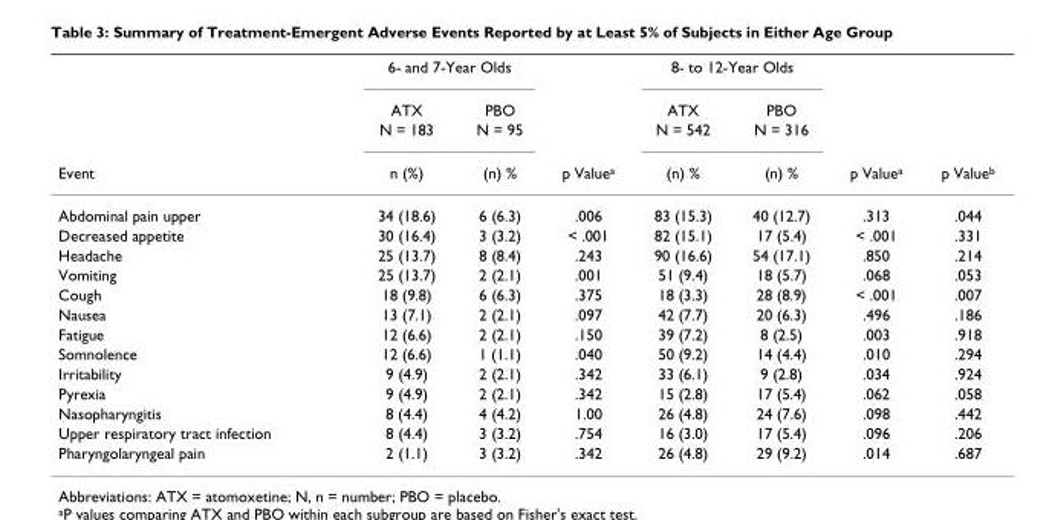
<table><thead><tr><td rowspan="4">Event</td><td colspan="2">6- and 7-Year Olds</td><td rowspan="4">p Value<sup>a</sup></td><td colspan="2">8- to 12-Year Olds</td><td rowspan="4">p Value<sup>a</sup></td><td rowspan="4">p Value<sup>b</sup></td></tr><tr><td rowspan="3">ATX N = 183 n (%)</td><td rowspan="3">PBO N = 95 (n) %</td><td rowspan="3">ATX N = 542 (n) %</td><td rowspan="3">PBO N = 316 (n) %</td></tr><tr></tr><tr></tr></thead><tbody><tr><td>Abdominal pain upper</td><td>34 (18.6)</td><td>6 (6.3)</td><td>.006</td><td>83 (15.3)</td><td>40 (12.7)</td><td>.313</td><td>.044</td></tr><tr><td>Decreased appetite</td><td>30 (16.4)</td><td>3 (3.2)</td><td>&lt; .001</td><td>82 (15.1)</td><td>17 (5.4)</td><td>&lt; .001</td><td>.331</td></tr><tr><td>Headache</td><td>25 (13.7)</td><td>8 (8.4)</td><td>.243</td><td>90 (16.6)</td><td>54 (17.1)</td><td>.850</td><td>.214</td></tr><tr><td>Vomiting</td><td>25 (13.7)</td><td>2 (2.1)</td><td>.001</td><td>51 (9.4)</td><td>18 (5.7)</td><td>.068</td><td>.053</td></tr><tr><td>Cough</td><td>18 (9.8)</td><td>6 (6.3)</td><td>.375</td><td>18 (3.3)</td><td>28 (8.9)</td><td>&lt; .001</td><td>.007</td></tr><tr><td>Nausea</td><td>13 (7.1)</td><td>2 (2.1)</td><td>.097</td><td>42 (7.7)</td><td>20 (6.3)</td><td>.496</td><td>.186</td></tr><tr><td>Fatigue</td><td>12 (6.6)</td><td>2 (2.1)</td><td>.150</td><td>39 (7.2)</td><td>8 (2.5)</td><td>.003</td><td>.918</td></tr><tr><td>Somnolence</td><td>12 (6.6)</td><td>1 (1.1)</td><td>.040</td><td>50 (9.2)</td><td>14 (4.4)</td><td>.010</td><td>.294</td></tr><tr><td>Irritability</td><td>9 (4.9)</td><td>2 (2.1)</td><td>.342</td><td>33 (6.1)</td><td>9 (2.8)</td><td>.034</td><td>.924</td></tr><tr><td>Pyrexia</td><td>9 (4.9)</td><td>2 (2.1)</td><td>.342</td><td>15 (2.8)</td><td>17 (5.4)</td><td>.062</td><td>.058</td></tr><tr><td>Nasopharyngitis</td><td>8 (4.4)</td><td>4 (4.2)</td><td>1.00</td><td>26 (4.8)</td><td>24 (7.6)</td><td>.098</td><td>.442</td></tr><tr><td>Upper respiratory tract infection</td><td>8 (4.4)</td><td>3 (3.2)</td><td>.754</td><td>16 (3.0)</td><td>17 (5.4)</td><td>.096</td><td>.206</td></tr><tr><td>Pharyngolaryngeal pain</td><td>2 (1.1)</td><td>3 (3.2)</td><td>.342</td><td>26 (4.8)</td><td>29 (9.2)</td><td>.014</td><td>.687</td></tr></tbody></table>